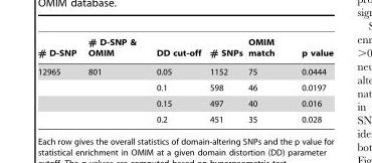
<table><thead><tr><td># D-SNP</td><td># D-SNP &amp; OMIM</td><td>DD cut-off</td><td># SNPs</td><td>OMIM match</td><td>p value</td></tr></thead><tbody><tr><td rowspan="4">12965</td><td>801</td><td>0.05</td><td>1152</td><td>75</td><td>0.0444</td></tr><tr><td></td><td>0.1</td><td>598</td><td>46</td><td>0.0197</td></tr><tr><td></td><td>0.15</td><td>497</td><td>40</td><td>0.016</td></tr><tr><td></td><td>0.2</td><td>451</td><td>35</td><td>0.028</td></tr></tbody></table>